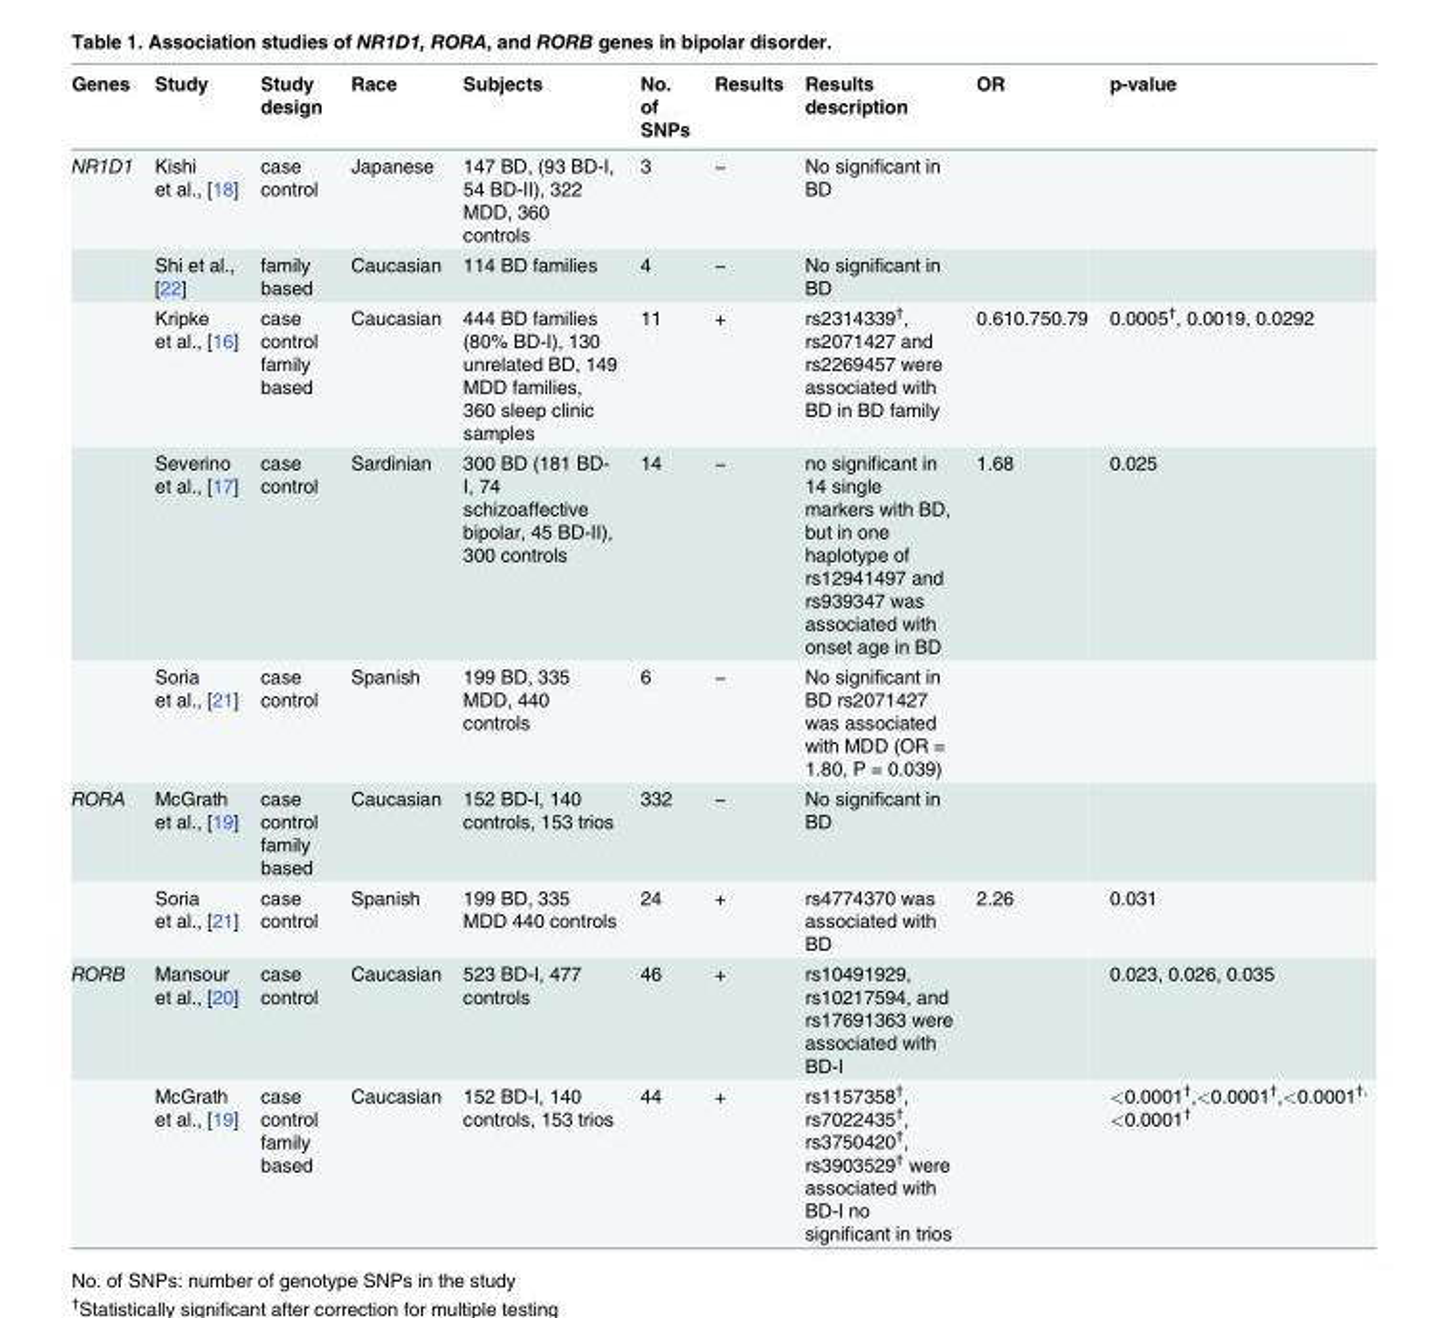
<table><thead><tr><td>Genes</td><td>Study</td><td>Study design</td><td>Race</td><td>Subjects</td><td>No. of SNPs</td><td>Results</td><td>Results description</td><td>OR</td><td>p-value</td></tr></thead><tbody><tr><td rowspan="5">NR1D1</td><td>Kishi et al., [18]</td><td>case control</td><td>Japanese</td><td>147 BD, (93 BD-I, 54 BD-II), 322 MDD, 360 controls</td><td>3</td><td>−</td><td>No significant in BD</td><td></td><td></td></tr><tr><td>Shi et al., [22]</td><td>family based</td><td>Caucasian</td><td>114 BD families</td><td>4</td><td>−</td><td>No significant in BD</td><td></td><td></td></tr><tr><td>Kripke et al., [16]</td><td>case control family based</td><td>Caucasian</td><td>444 BD families (80% BD-I), 130 unrelated BD, 149 MDD families, 360 sleep clinic samples</td><td>11</td><td>+</td><td>rs2314339<sup>†</sup>, rs2071427 and rs2269457 were associated with BD in BD family</td><td>0.610.750.79</td><td>0.0005<sup>†</sup>, 0.0019, 0.0292</td></tr><tr><td>Severino et al., [17]</td><td>case control</td><td>Sardinian</td><td>300 BD (181 BD- I, 74 schizoaffective bipolar, 45 BD-II), 300 controls</td><td>14</td><td>−</td><td>no significant in 14 single markers with BD, but in one haplotype of rs12941497 and rs939347 was associated with onset age in BD</td><td>1.68</td><td>0.025</td></tr><tr><td>Soria et al., [21]</td><td>case control</td><td>Spanish</td><td>199 BD, 335 MDD, 440 controls</td><td>6</td><td>−</td><td>No significant in BD rs2071427 was associated with MDD (OR = 1.80, P = 0.039)</td><td></td><td></td></tr><tr><td rowspan="2">RORA</td><td>McGrath et al., [19]</td><td>case control family based</td><td>Caucasian</td><td>152 BD-I, 140 controls, 153 trios</td><td>332</td><td>−</td><td>No significant in BD</td><td></td><td></td></tr><tr><td>Soria et al., [21]</td><td>case control</td><td>Spanish</td><td>199 BD, 335 MDD 440 controls</td><td>24</td><td>+</td><td>rs4774370 was associated with BD</td><td>2.26</td><td>0.031</td></tr><tr><td rowspan="2">RORB</td><td>Mansour et al., [20]</td><td>case control</td><td>Caucasian</td><td>523 BD-I, 477 controls</td><td>46</td><td>+</td><td>rs10491929, rs10217594, and rs17691363 were associated with BD-I</td><td></td><td>0.023, 0.026, 0.035</td></tr><tr><td>McGrath et al., [19]</td><td>case control family based</td><td>Caucasian</td><td>152 BD-I, 140 controls, 153 trios</td><td>44</td><td>+</td><td>rs1157358<sup>†</sup>, rs7022435<sup>†</sup>, rs3750420<sup>†</sup>, rs3903529<sup>†</sup> were associated with BD-I no significant in trios</td><td></td><td>&lt;0.0001<sup>†</sup>,&lt;0.0001<sup>†</sup>,&lt;0.0001<sup>†,</sup> &lt;0.0001<sup>†</sup></td></tr></tbody></table>